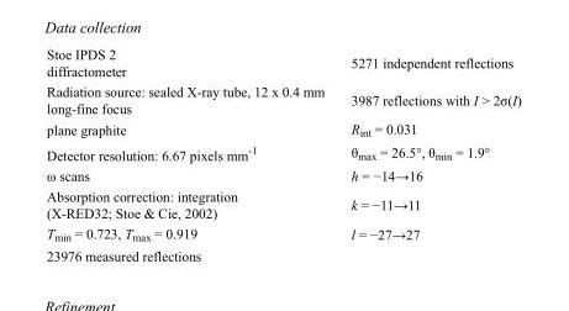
<table><tbody><tr><td>Stoe IPDS 2 diffractometer</td><td>5271 independent reflections</td></tr><tr><td>Radiation source: sealed X-ray tube, 12 x 0.4 mm long-fine focus</td><td>3987 reflections with I &gt; 2σ(I)</td></tr><tr><td>plane graphite</td><td>R<sub>int</sub> = 0.031</td></tr><tr><td>Detector resolution: 6.67 pixels mm<sup>-1</sup></td><td>θ<sub>max</sub> = 26.5°, θ<sub>min</sub> = 1.9°</td></tr><tr><td>ω scans</td><td>h = −14→16</td></tr><tr><td>Absorption correction: integration (X-RED32; Stoe &amp; Cie, 2002)</td><td>k = −11→11</td></tr><tr><td>T<sub>min</sub> = 0.723, T<sub>max</sub> = 0.919</td><td>l = −27→27</td></tr><tr><td>23976 measured reflections</td><td></td></tr></tbody></table>